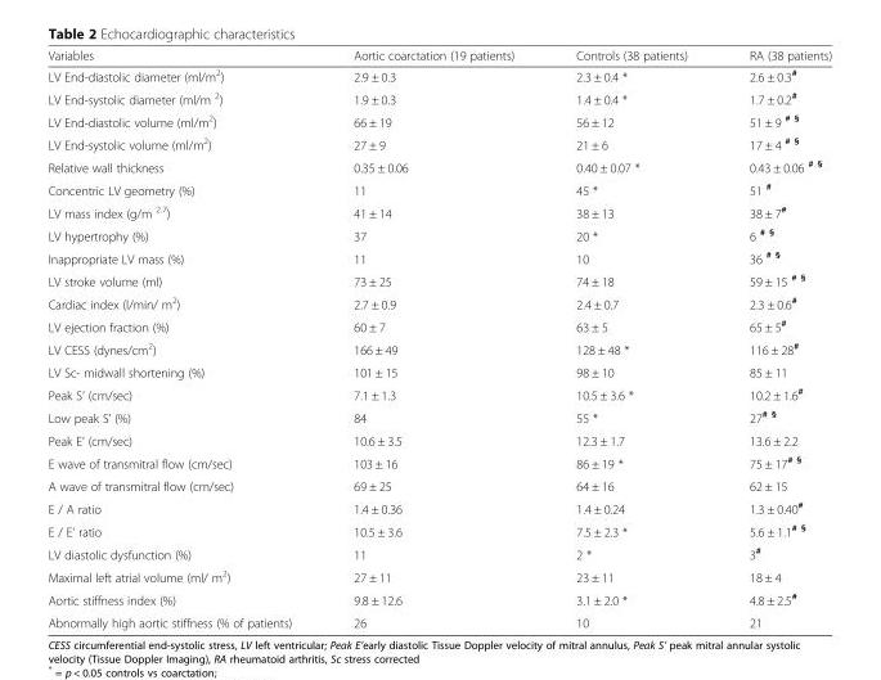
<table><thead><tr><td>Variables</td><td>Aortic coarctation (19 patients)</td><td>Controls (38 patients)</td><td>RA (38 patients)</td></tr></thead><tbody><tr><td>LV End-diastolic diameter (ml/m<sup>2</sup>)</td><td>2.9 ± 0.3</td><td>2.3 ± 0.4 *</td><td>2.6 ± 0.3<sup>#</sup></td></tr><tr><td>LV End-systolic diameter (ml/m <sup>2</sup>)</td><td>1.9 ± 0.3</td><td>1.4 ± 0.4 *</td><td>1.7 ± 0.2<sup>#</sup></td></tr><tr><td>LV End-diastolic volume (ml/m<sup>2</sup>)</td><td>66 ± 19</td><td>56 ± 12</td><td>51 ± 9 <sup># §</sup></td></tr><tr><td>LV End-systolic volume (ml/m<sup>2</sup>)</td><td>27 ± 9</td><td>21 ± 6</td><td>17 ± 4 <sup># §</sup></td></tr><tr><td>Relative wall thickness</td><td>0.35 ± 0.06</td><td>0.40 ± 0.07 *</td><td>0.43 ± 0.06 <sup># §</sup></td></tr><tr><td>Concentric LV geometry (%)</td><td>11</td><td>45 *</td><td>51 <sup>#</sup></td></tr><tr><td>LV mass index (g/m <sup>2.7</sup>)</td><td>41 ± 14</td><td>38 ± 13</td><td>38 ± 7<sup>#</sup></td></tr><tr><td>LV hypertrophy (%)</td><td>37</td><td>20 *</td><td>6 <sup># §</sup></td></tr><tr><td>Inappropriate LV mass (%)</td><td>11</td><td>10</td><td>36 <sup># §</sup></td></tr><tr><td>LV stroke volume (ml)</td><td>73 ± 25</td><td>74 ± 18</td><td>59 ± 15 <sup># §</sup></td></tr><tr><td>Cardiac index (l/min/ m<sup>2</sup>)</td><td>2.7 ± 0.9</td><td>2.4 ± 0.7</td><td>2.3 ± 0.6<sup>#</sup></td></tr><tr><td>LV ejection fraction (%)</td><td>60 ± 7</td><td>63 ± 5</td><td>65 ± 5<sup>#</sup></td></tr><tr><td>LV CESS (dynes/cm<sup>2</sup>)</td><td>166 ± 49</td><td>128 ± 48 *</td><td>116 ± 28<sup>#</sup></td></tr><tr><td>LV Sc- midwall shortening (%)</td><td>101 ± 15</td><td>98 ± 10</td><td>85 ± 11</td></tr><tr><td>Peak S’ (cm/sec)</td><td>7.1 ± 1.3</td><td>10.5 ± 3.6 *</td><td>10.2 ± 1.6<sup>#</sup></td></tr><tr><td>Low peak S’ (%)</td><td>84</td><td>55 *</td><td>27<sup># §</sup></td></tr><tr><td>Peak E’ (cm/sec)</td><td>10.6 ± 3.5</td><td>12.3 ± 1.7</td><td>13.6 ± 2.2</td></tr><tr><td>E wave of transmitral flow (cm/sec)</td><td>103 ± 16</td><td>86 ± 19 *</td><td>75 ± 17<sup># §</sup></td></tr><tr><td>A wave of transmitral flow (cm/sec)</td><td>69 ± 25</td><td>64 ± 16</td><td>62 ± 15</td></tr><tr><td>E / A ratio</td><td>1.4 ± 0.36</td><td>1.4 ± 0.24</td><td>1.3 ± 0.40<sup>#</sup></td></tr><tr><td>E / E’ ratio</td><td>10.5 ± 3.6</td><td>7.5 ± 2.3 *</td><td>5.6 ± 1.1<sup># §</sup></td></tr><tr><td>LV diastolic dysfunction (%)</td><td>11</td><td>2 *</td><td>3<sup>#</sup></td></tr><tr><td>Maximal left atrial volume (ml/ m<sup>2</sup>)</td><td>27 ± 11</td><td>23 ± 11</td><td>18 ± 4</td></tr><tr><td>Aortic stiffness index (%)</td><td>9.8 ± 12.6</td><td>3.1 ± 2.0 *</td><td>4.8 ± 2.5<sup>#</sup></td></tr><tr><td>Abnormally high aortic stiffness (% of patients)</td><td>26</td><td>10</td><td>21</td></tr></tbody></table>